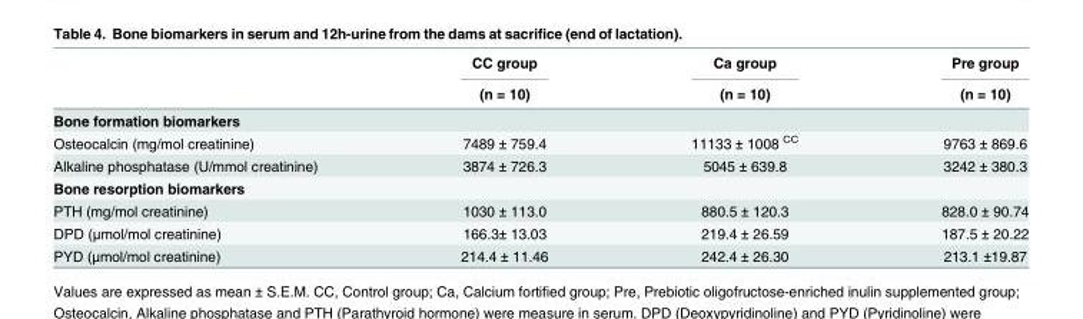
<table><thead><tr><td rowspan="2"></td><td rowspan="2">CC group (n = 10)</td><td rowspan="2">Ca group (n = 10)</td><td rowspan="2">Pre group (n = 10)</td></tr><tr></tr></thead><tbody><tr><td colspan="4">Bone formation biomarkers</td></tr><tr><td>Osteocalcin (mg/mol creatinine)</td><td>7489 ± 759.4</td><td>11133 ± 1008 <sup>CC</sup></td><td>9763 ± 869.6</td></tr><tr><td>Alkaline phosphatase (U/mmol creatinine)</td><td>3874 ± 726.3</td><td>5045 ± 639.8</td><td>3242 ± 380.3</td></tr><tr><td colspan="4">Bone resorption biomarkers</td></tr><tr><td>PTH (mg/mol creatinine)</td><td>1030 ± 113.0</td><td>880.5 ± 120.3</td><td>828.0 ± 90.74</td></tr><tr><td>DPD (μmol/mol creatinine)</td><td>166.3± 13.03</td><td>219.4 ± 26.59</td><td>187.5 ± 20.22</td></tr><tr><td>PYD (μmol/mol creatinine)</td><td>214.4 ± 11.46</td><td>242.4 ± 26.30</td><td>213.1 ±19.87</td></tr></tbody></table>